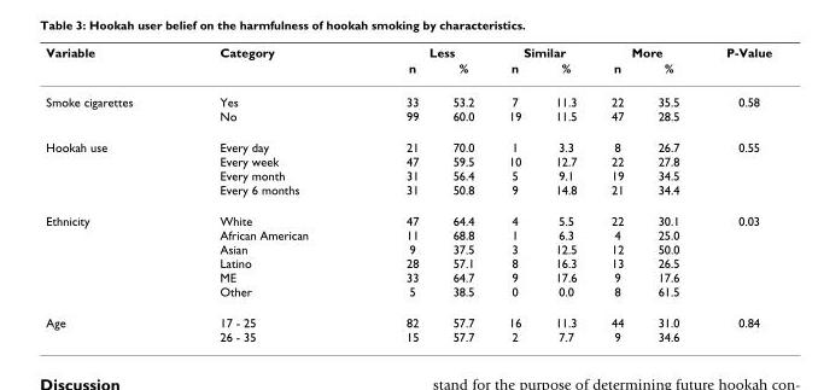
<table><thead><tr><td rowspan="2">Variable</td><td rowspan="2">Category</td><td colspan="2">Less</td><td colspan="2">Similar</td><td colspan="2">More</td><td rowspan="2">P-Value</td></tr><tr><td>n</td><td>%</td><td>n</td><td>%</td><td>n</td><td>%</td></tr></thead><tbody><tr><td>Smoke cigarettes</td><td>Yes No</td><td>33 99</td><td>53.2 60.0</td><td>7 19</td><td>11.3 11.5</td><td>22 47</td><td>35.5 28.5</td><td>0.58</td></tr><tr><td>Hookah use</td><td>Every day Every week Every month Every 6 months</td><td>21 47 31 31</td><td>70.0 59.5 56.4 50.8</td><td>1 10 5 9</td><td>3.3 12.7 9.1 14.8</td><td>8 22 19 21</td><td>26.7 27.8 34.5 34.4</td><td>0.55</td></tr><tr><td>Ethnicity</td><td>White African American Asian Latino ME Other</td><td>47 11 9 28 33 5</td><td>64.4 68.8 37.5 57.1 64.7 38.5</td><td>4 1 3 8 9 0</td><td>5.5 6.3 12.5 16.3 17.6 0.0</td><td>22 4 12 13 9 8</td><td>30.1 25.0 50.0 26.5 17.6 61.5</td><td>0.03</td></tr><tr><td>Age</td><td>17 - 25 26 - 35</td><td>82 15</td><td>57.7 57.7</td><td>16 2</td><td>11.3 7.7</td><td>44 9</td><td>31.0 34.6</td><td>0.84</td></tr></tbody></table>